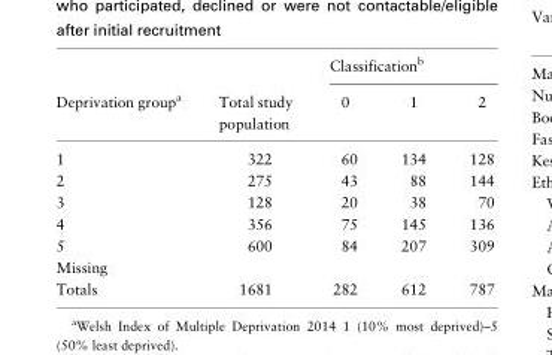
<table><thead><tr><td rowspan="2">Deprivation group<sup>a</sup></td><td rowspan="2">Total study population</td><td colspan="3">Classification<sup>b</sup></td></tr><tr><td>0</td><td>1</td><td>2</td></tr></thead><tbody><tr><td>1</td><td>322</td><td>60</td><td>134</td><td>128</td></tr><tr><td>2</td><td>275</td><td>43</td><td>88</td><td>144</td></tr><tr><td>3</td><td>128</td><td>20</td><td>38</td><td>70</td></tr><tr><td>4</td><td>356</td><td>75</td><td>145</td><td>136</td></tr><tr><td>5</td><td>600</td><td>84</td><td>207</td><td>309</td></tr><tr><td colspan="5">Missing</td></tr><tr><td>Totals</td><td>1681</td><td>282</td><td>612</td><td>787</td></tr></tbody></table>